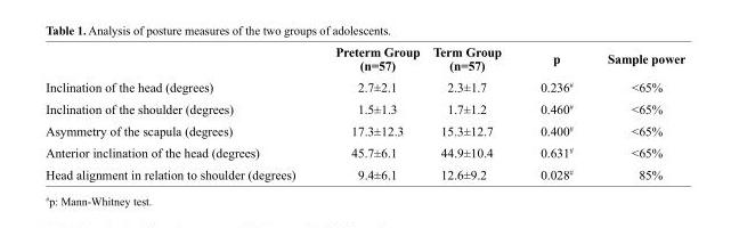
<table><thead><tr><td></td><td>Preterm Group (n=57)</td><td>Term Group (n=57)</td><td>p</td><td>Sample power</td></tr></thead><tbody><tr><td>Inclination of the head (degrees)</td><td>2.7±2.1</td><td>2.3±1.7</td><td>0.236<sup>#</sup></td><td>&lt;65%</td></tr><tr><td>Inclination of the shoulder (degrees)</td><td>1.5±1.3</td><td>1.7±1.2</td><td>0.460<sup>#</sup></td><td>&lt;65%</td></tr><tr><td>Asymmetry of the scapula (degrees)</td><td>17.3±12.3</td><td>15.3±12.7</td><td>0.400<sup>#</sup></td><td>&lt;65%</td></tr><tr><td>Anterior inclination of the head (degrees)</td><td>45.7±6.1</td><td>44.9±10.4</td><td>0.631<sup>#</sup></td><td>&lt;65%</td></tr><tr><td>Head alignment in relation to shoulder (degrees)</td><td>9.4±6.1</td><td>12.6±9.2</td><td>0.028<sup>#</sup></td><td>85%</td></tr></tbody></table>